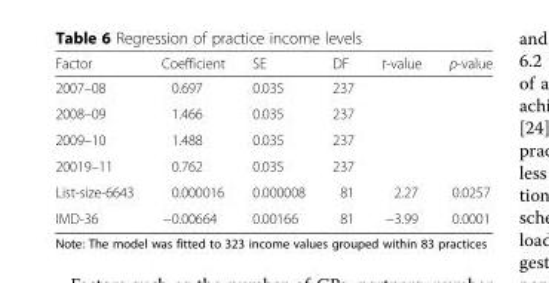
<table><thead><tr><td>Factor</td><td>Coefficient</td><td>SE</td><td>DF</td><td>t-value</td><td>p-value</td></tr></thead><tbody><tr><td>2007–08</td><td>0.697</td><td>0.035</td><td>237</td><td></td><td></td></tr><tr><td>2008–09</td><td>1.466</td><td>0.035</td><td>237</td><td></td><td></td></tr><tr><td>2009–10</td><td>1.488</td><td>0.035</td><td>237</td><td></td><td></td></tr><tr><td>20019–11</td><td>0.762</td><td>0.035</td><td>237</td><td></td><td></td></tr><tr><td>List-size-6643</td><td>0.000016</td><td>0.000008</td><td>81</td><td>2.27</td><td>0.0257</td></tr><tr><td>IMD-36</td><td>−0.00664</td><td>0.00166</td><td>81</td><td>−3.99</td><td>0.0001</td></tr></tbody></table>